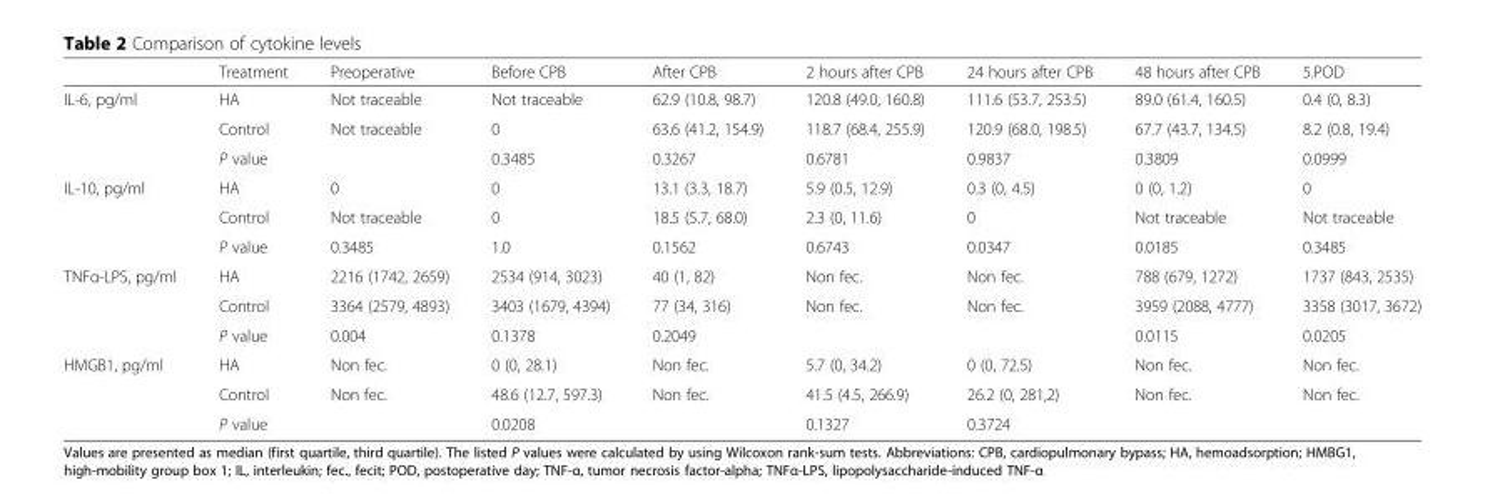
<table><thead><tr><td></td><td>Treatment</td><td>Preoperative</td><td>Before CPB</td><td>After CPB</td><td>2 hours after CPB</td><td>24 hours after CPB</td><td>48 hours after CPB</td><td>5.POD</td></tr></thead><tbody><tr><td rowspan="3">IL-6, pg/ml</td><td>HA</td><td>Not traceable</td><td>Not traceable</td><td>62.9 (10.8, 98.7)</td><td>120.8 (49.0, 160.8)</td><td>111.6 (53.7, 253.5)</td><td>89.0 (61.4, 160.5)</td><td>0.4 (0, 8.3)</td></tr><tr><td>Control</td><td>Not traceable</td><td>0</td><td>63.6 (41.2, 154.9)</td><td>118.7 (68.4, 255.9)</td><td>120.9 (68.0, 198.5)</td><td>67.7 (43.7, 134.5)</td><td>8.2 (0.8, 19.4)</td></tr><tr><td>P value</td><td></td><td>0.3485</td><td>0.3267</td><td>0.6781</td><td>0.9837</td><td>0.3809</td><td>0.0999</td></tr><tr><td rowspan="3">IL-10, pg/ml</td><td>HA</td><td>0</td><td>0</td><td>13.1 (3.3, 18.7)</td><td>5.9 (0.5, 12.9)</td><td>0.3 (0, 4.5)</td><td>0 (0, 1.2)</td><td>0</td></tr><tr><td>Control</td><td>Not traceable</td><td>0</td><td>18.5 (5.7, 68.0)</td><td>2.3 (0, 11.6)</td><td>0</td><td>Not traceable</td><td>Not traceable</td></tr><tr><td>P value</td><td>0.3485</td><td>1.0</td><td>0.1562</td><td>0.6743</td><td>0.0347</td><td>0.0185</td><td>0.3485</td></tr><tr><td rowspan="3">TNFα-LPS, pg/ml</td><td>HA</td><td>2216 (1742, 2659)</td><td>2534 (914, 3023)</td><td>40 (1, 82)</td><td>Non fec.</td><td>Non fec.</td><td>788 (679, 1272)</td><td>1737 (843, 2535)</td></tr><tr><td>Control</td><td>3364 (2579, 4893)</td><td>3403 (1679, 4394)</td><td>77 (34, 316)</td><td>Non fec.</td><td>Non fec.</td><td>3959 (2088, 4777)</td><td>3358 (3017, 3672)</td></tr><tr><td>P value</td><td>0.004</td><td>0.1378</td><td>0.2049</td><td></td><td></td><td>0.0115</td><td>0.0205</td></tr><tr><td rowspan="3">HMGB1, pg/ml</td><td>HA</td><td>Non fec.</td><td>0 (0, 28.1)</td><td>Non fec.</td><td>5.7 (0, 34.2)</td><td>0 (0, 72.5)</td><td>Non fec.</td><td>Non fec.</td></tr><tr><td>Control</td><td>Non fec.</td><td>48.6 (12.7, 597.3)</td><td>Non fec.</td><td>41.5 (4.5, 266.9)</td><td>26.2 (0, 281,2)</td><td>Non fec.</td><td>Non fec.</td></tr><tr><td>P value</td><td></td><td>0.0208</td><td></td><td>0.1327</td><td>0.3724</td><td></td><td></td></tr></tbody></table>